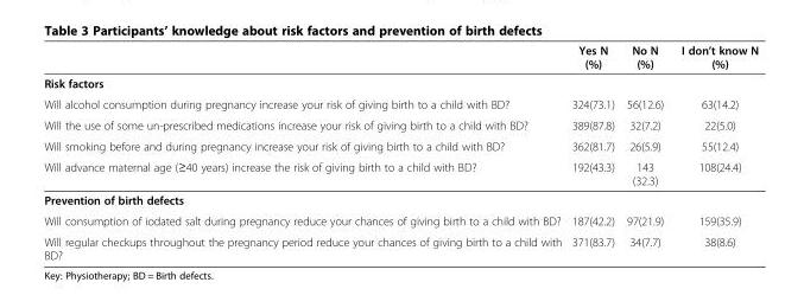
<table><thead><tr><td></td><td>Yes N (%)</td><td>No N (%)</td><td>I don’t know N (%)</td></tr></thead><tbody><tr><td colspan="4">Risk factors</td></tr><tr><td>Will alcohol consumption during pregnancy increase your risk of giving birth to a child with BD?</td><td>324(73.1)</td><td>56(12.6)</td><td>63(14.2)</td></tr><tr><td>Will the use of some un-prescribed medications increase your risk of giving birth to a child with BD?</td><td>389(87.8)</td><td>32(7.2)</td><td>22(5.0)</td></tr><tr><td>Will smoking before and during pregnancy increase your risk of giving birth to a child with BD?</td><td>362(81.7)</td><td>26(5.9)</td><td>55(12.4)</td></tr><tr><td>Will advance maternal age (≥40 years) increase the risk of giving birth to a child with BD?</td><td>192(43.3)</td><td>143 (32.3)</td><td>108(24.4)</td></tr><tr><td colspan="4">Prevention of birth defects</td></tr><tr><td>Will consumption of iodated salt during pregnancy reduce your chances of giving birth to a child with BD?</td><td>187(42.2)</td><td>97(21.9)</td><td>159(35.9)</td></tr><tr><td>Will regular checkups throughout the pregnancy period reduce your chances of giving birth to a child with BD?</td><td>371(83.7)</td><td>34(7.7)</td><td>38(8.6)</td></tr></tbody></table>